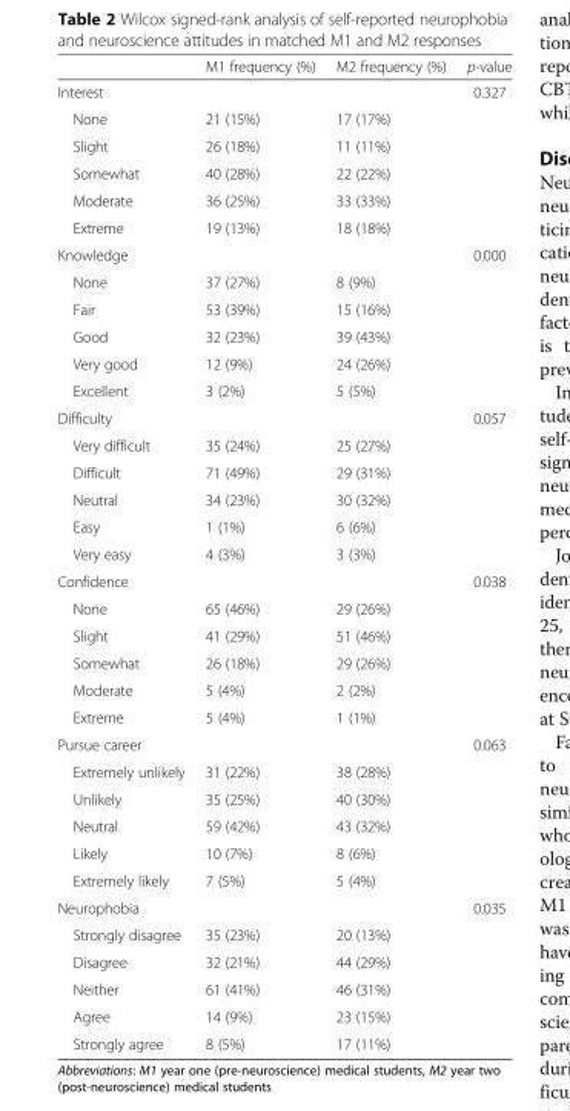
<table><thead><tr><td></td><td>M1 frequency (%)</td><td>M2 frequency (%)</td><td>p-value</td></tr></thead><tbody><tr><td>Interest</td><td></td><td></td><td>0.327</td></tr><tr><td>None</td><td>21 (15%)</td><td>17 (17%)</td><td></td></tr><tr><td>Slight</td><td>26 (18%)</td><td>11 (11%)</td><td></td></tr><tr><td>Somewhat</td><td>40 (28%)</td><td>22 (22%)</td><td></td></tr><tr><td>Moderate</td><td>36 (25%)</td><td>33 (33%)</td><td></td></tr><tr><td>Extreme</td><td>19 (13%)</td><td>18 (18%)</td><td></td></tr><tr><td>Knowledge</td><td></td><td></td><td>0.000</td></tr><tr><td>None</td><td>37 (27%)</td><td>8 (9%)</td><td></td></tr><tr><td>Fair</td><td>53 (39%)</td><td>15 (16%)</td><td></td></tr><tr><td>Good</td><td>32 (23%)</td><td>39 (43%)</td><td></td></tr><tr><td>Very good</td><td>12 (9%)</td><td>24 (26%)</td><td></td></tr><tr><td>Excellent</td><td>3 (2%)</td><td>5 (5%)</td><td></td></tr><tr><td>Difficulty</td><td></td><td></td><td>0.057</td></tr><tr><td>Very difficult</td><td>35 (24%)</td><td>25 (27%)</td><td></td></tr><tr><td>Difficult</td><td>71 (49%)</td><td>29 (31%)</td><td></td></tr><tr><td>Neutral</td><td>34 (23%)</td><td>30 (32%)</td><td></td></tr><tr><td>Easy</td><td>1 (1%)</td><td>6 (6%)</td><td></td></tr><tr><td>Very easy</td><td>4 (3%)</td><td>3 (3%)</td><td></td></tr><tr><td>Confidence</td><td></td><td></td><td>0.038</td></tr><tr><td>None</td><td>65 (46%)</td><td>29 (26%)</td><td></td></tr><tr><td>Slight</td><td>41 (29%)</td><td>51 (46%)</td><td></td></tr><tr><td>Somewhat</td><td>26 (18%)</td><td>29 (26%)</td><td></td></tr><tr><td>Moderate</td><td>5 (4%)</td><td>2 (2%)</td><td></td></tr><tr><td>Extreme</td><td>5 (4%)</td><td>1 (1%)</td><td></td></tr><tr><td>Pursue career</td><td></td><td></td><td>0.063</td></tr><tr><td>Extremely unlikely</td><td>31 (22%)</td><td>38 (28%)</td><td></td></tr><tr><td>Unlikely</td><td>35 (25%)</td><td>40 (30%)</td><td></td></tr><tr><td>Neutral</td><td>59 (42%)</td><td>43 (32%)</td><td></td></tr><tr><td>Likely</td><td>10 (7%)</td><td>8 (6%)</td><td></td></tr><tr><td>Extremely likely</td><td>7 (5%)</td><td>5 (4%)</td><td></td></tr><tr><td>Neurophobia</td><td></td><td></td><td>0.035</td></tr><tr><td>Strongly disagree</td><td>35 (23%)</td><td>20 (13%)</td><td></td></tr><tr><td>Disagree</td><td>32 (21%)</td><td>44 (29%)</td><td></td></tr><tr><td>Neither</td><td>61 (41%)</td><td>46 (31%)</td><td></td></tr><tr><td>Agree</td><td>14 (9%)</td><td>23 (15%)</td><td></td></tr><tr><td>Strongly agree</td><td>8 (5%)</td><td>17 (11%)</td><td></td></tr></tbody></table>